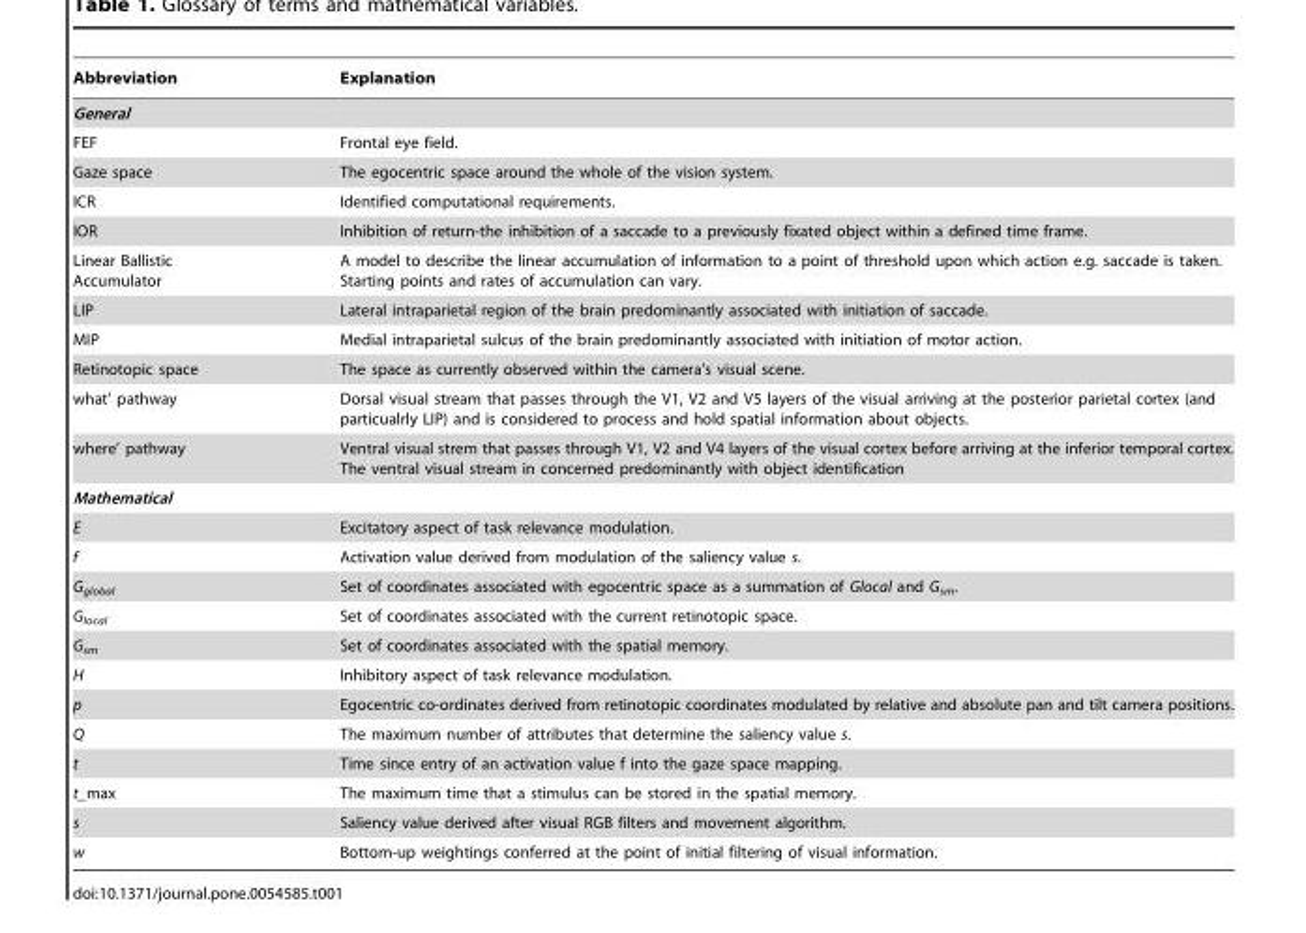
<table><thead><tr><td>Abbreviation</td><td>Explanation</td></tr></thead><tbody><tr><td colspan="2">General</td></tr><tr><td>FEF</td><td>Frontal eye field.</td></tr><tr><td>Gaze space</td><td>The egocentric space around the whole of the vision system.</td></tr><tr><td>ICR</td><td>Identified computational requirements.</td></tr><tr><td>IOR</td><td>Inhibition of return-the inhibition of a saccade to a previously fixated object within a defined time frame.</td></tr><tr><td>Linear Ballistic Accumulator</td><td>A model to describe the linear accumulation of information to a point of threshold upon which action e.g. saccade is taken. Starting points and rates of accumulation can vary.</td></tr><tr><td>LIP</td><td>Lateral intraparietal region of the brain predominantly associated with initiation of saccade.</td></tr><tr><td>MIP</td><td>Medial intraparietal sulcus of the brain predominantly associated with initiation of motor action.</td></tr><tr><td>Retinotopic space</td><td>The space as currently observed within the camera’s visual scene.</td></tr><tr><td>what’ pathway</td><td>Dorsal visual stream that passes through the V1, V2 and V5 layers of the visual arriving at the posterior parietal cortex (and particualrly LIP) and is considered to process and hold spatial information about objects.</td></tr><tr><td>where’ pathway</td><td>Ventral visual strem that passes through V1, V2 and V4 layers of the visual cortex before arriving at the inferior temporal cortex. The ventral visual stream in concerned predominantly with object identification</td></tr><tr><td colspan="2">Mathematical</td></tr><tr><td>E</td><td>Excitatory aspect of task relevance modulation.</td></tr><tr><td>f</td><td>Activation value derived from modulation of the saliency value s.</td></tr><tr><td>G<sub>global</sub></td><td>Set of coordinates associated with egocentric space as a summation of Glocal and G<sub>sm</sub>.</td></tr><tr><td>G<sub>local</sub></td><td>Set of coordinates associated with the current retinotopic space.</td></tr><tr><td>G<sub>sm</sub></td><td>Set of coordinates associated with the spatial memory.</td></tr><tr><td>H</td><td>Inhibitory aspect of task relevance modulation.</td></tr><tr><td>p</td><td>Egocentric co-ordinates derived from retinotopic coordinates modulated by relative and absolute pan and tilt camera positions.</td></tr><tr><td>Q</td><td>The maximum number of attributes that determine the saliency value s.</td></tr><tr><td>t</td><td>Time since entry of an activation value f into the gaze space mapping.</td></tr><tr><td>t_max</td><td>The maximum time that a stimulus can be stored in the spatial memory.</td></tr><tr><td>s</td><td>Saliency value derived after visual RGB filters and movement algorithm.</td></tr><tr><td>w</td><td>Bottom-up weightings conferred at the point of initial filtering of visual information.</td></tr></tbody></table>